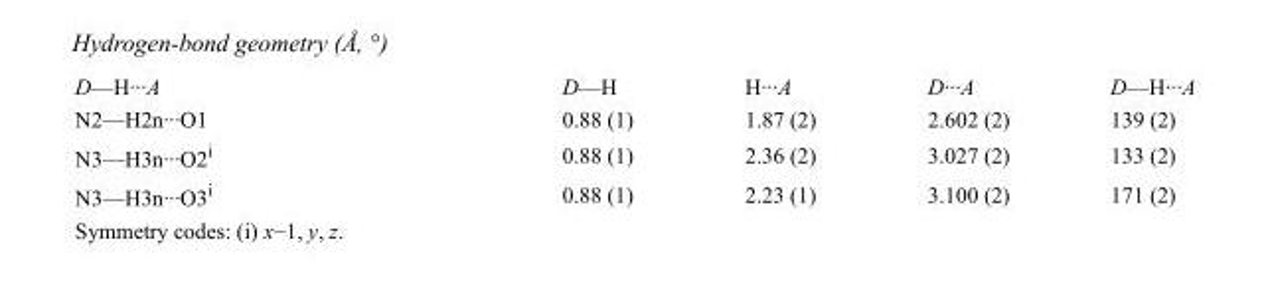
<table><tbody><tr><td>D—H···A</td><td>D—H</td><td>H···A</td><td>D···A</td><td>D—H···A</td></tr><tr><td>N2—H2n···O1</td><td>0.88 (1)</td><td>1.87 (2)</td><td>2.602 (2)</td><td>139 (2)</td></tr><tr><td>N3—H3n···O2<sup>i</sup></td><td>0.88 (1)</td><td>2.36 (2)</td><td>3.027 (2)</td><td>133 (2)</td></tr><tr><td>N3—H3n···O3<sup>i</sup></td><td>0.88 (1)</td><td>2.23 (1)</td><td>3.100 (2)</td><td>171 (2)</td></tr></tbody></table>